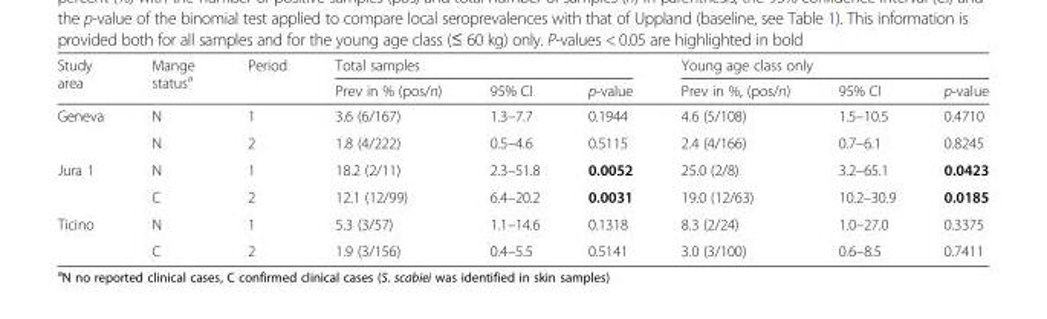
<table><thead><tr><td rowspan="2">Study area</td><td rowspan="2">Mange status<sup>a</sup></td><td rowspan="2">Period</td><td colspan="3">Total samples</td><td colspan="3">Young age class only</td></tr><tr><td>Prev in % (pos/n)</td><td>95% CI</td><td>p-value</td><td>Prev in %, (pos/n)</td><td>95% CI</td><td>p-value</td></tr></thead><tbody><tr><td rowspan="2">Geneva</td><td>N</td><td>1</td><td>3.6 (6/167)</td><td>1.3–7.7</td><td>0.1944</td><td>4.6 (5/108)</td><td>1.5–10.5</td><td>0.4710</td></tr><tr><td>N</td><td>2</td><td>1.8 (4/222)</td><td>0.5–4.6</td><td>0.5115</td><td>2.4 (4/166)</td><td>0.7–6.1</td><td>0.8245</td></tr><tr><td rowspan="2">Jura 1</td><td>N</td><td>1</td><td>18.2 (2/11)</td><td>2.3–51.8</td><td>0.0052</td><td>25.0 (2/8)</td><td>3.2–65.1</td><td>0.0423</td></tr><tr><td>C</td><td>2</td><td>12.1 (12/99)</td><td>6.4–20.2</td><td>0.0031</td><td>19.0 (12/63)</td><td>10.2–30.9</td><td>0.0185</td></tr><tr><td rowspan="2">Ticino</td><td>N</td><td>1</td><td>5.3 (3/57)</td><td>1.1–14.6</td><td>0.1318</td><td>8.3 (2/24)</td><td>1.0–27.0</td><td>0.3375</td></tr><tr><td>C</td><td>2</td><td>1.9 (3/156)</td><td>0.4–5.5</td><td>0.5141</td><td>3.0 (3/100)</td><td>0.6–8.5</td><td>0.7411</td></tr></tbody></table>